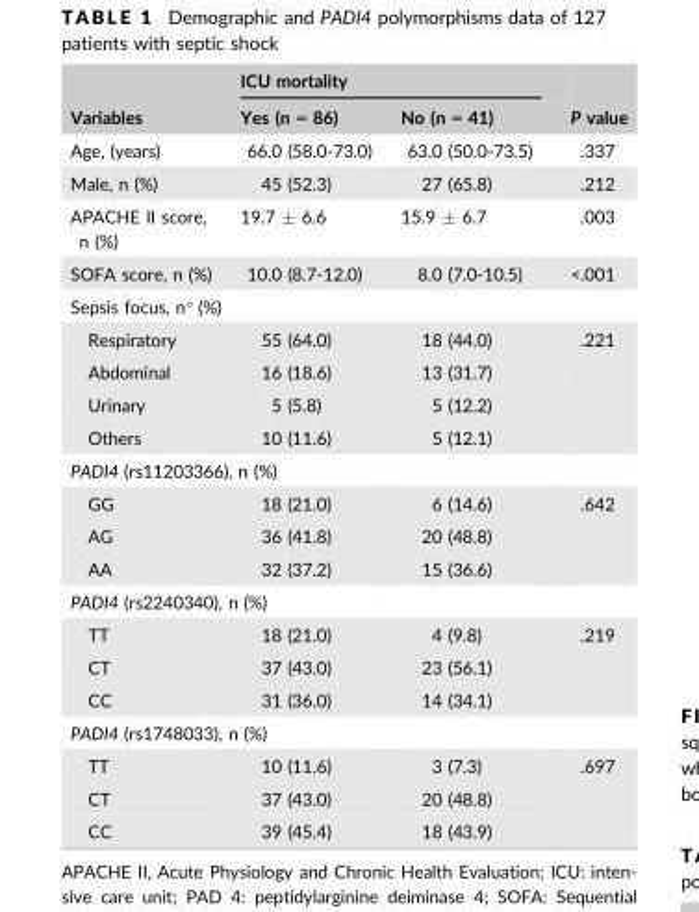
<table><thead><tr><td rowspan="2">Variables</td><td colspan="2">ICU mortality</td><td rowspan="2">P value</td></tr><tr><td>Yes (n = 86)</td><td>No (n = 41)</td></tr></thead><tbody><tr><td>Age, (years)</td><td>66.0 (58.0-73.0)</td><td>63.0 (50.0-73.5)</td><td>.337</td></tr><tr><td>Male, n (%)</td><td>45 (52.3)</td><td>27 (65.8)</td><td>.212</td></tr><tr><td>APACHE II score, n (%)</td><td>19.7 ± 6.6</td><td>15.9 ± 6.7</td><td>.003</td></tr><tr><td>SOFA score, n (%)</td><td>10.0 (8.7-12.0)</td><td>8.0 (7.0-10.5)</td><td>&lt;.001</td></tr><tr><td colspan="4">Sepsis focus, n° (%)</td></tr><tr><td>Respiratory</td><td>55 (64.0)</td><td>18 (44.0)</td><td rowspan="4">.221</td></tr><tr><td>Abdominal</td><td>16 (18.6)</td><td>13 (31.7)</td></tr><tr><td>Urinary</td><td>5 (5.8)</td><td>5 (12.2)</td></tr><tr><td>Others</td><td>10 (11.6)</td><td>5 (12.1)</td></tr><tr><td colspan="4">PADI4 (rs11203366), n (%)</td></tr><tr><td>GG</td><td>18 (21.0)</td><td>6 (14.6)</td><td rowspan="3">.642</td></tr><tr><td>AG</td><td>36 (41.8)</td><td>20 (48.8)</td></tr><tr><td>AA</td><td>32 (37.2)</td><td>15 (36.6)</td></tr><tr><td colspan="4">PADI4 (rs2240340), n (%)</td></tr><tr><td>TT</td><td>18 (21.0)</td><td>4 (9.8)</td><td rowspan="3">.219</td></tr><tr><td>CT</td><td>37 (43.0)</td><td>23 (56.1)</td></tr><tr><td>CC</td><td>31 (36.0)</td><td>14 (34.1)</td></tr><tr><td colspan="4">PADI4 (rs1748033), n (%)</td></tr><tr><td>TT</td><td>10 (11.6)</td><td>3 (7.3)</td><td rowspan="3">.697</td></tr><tr><td>CT</td><td>37 (43.0)</td><td>20 (48.8)</td></tr><tr><td>CC</td><td>39 (45.4)</td><td>18 (43.9)</td></tr></tbody></table>